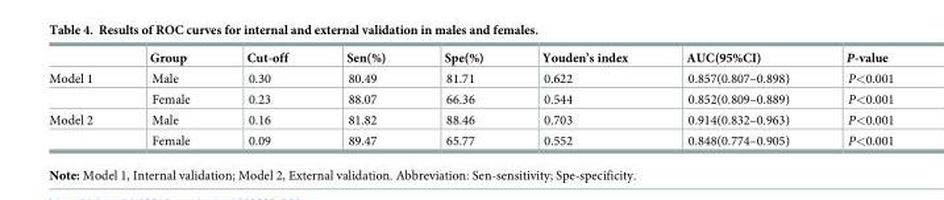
<table><thead><tr><td></td><td>Group</td><td>Cut-off</td><td>Sen(%)</td><td>Spe(%)</td><td>Youden’s index</td><td>AUC(95%CI)</td><td>P-value</td></tr></thead><tbody><tr><td rowspan="2">Model 1</td><td>Male</td><td>0.30</td><td>80.49</td><td>81.71</td><td>0.622</td><td>0.857(0.807–0.898)</td><td>P&lt;0.001</td></tr><tr><td>Female</td><td>0.23</td><td>88.07</td><td>66.36</td><td>0.544</td><td>0.852(0.809–0.889)</td><td>P&lt;0.001</td></tr><tr><td rowspan="2">Model 2</td><td>Male</td><td>0.16</td><td>81.82</td><td>88.46</td><td>0.703</td><td>0.914(0.832–0.963)</td><td>P&lt;0.001</td></tr><tr><td>Female</td><td>0.09</td><td>89.47</td><td>65.77</td><td>0.552</td><td>0.848(0.774–0.905)</td><td>P&lt;0.001</td></tr></tbody></table>